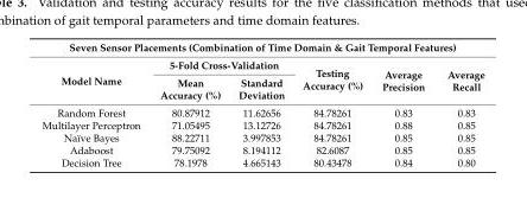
<table><thead><tr><td colspan="6">Seven Sensor Placements (Combination of Time Domain &amp; Gait Temporal Features)</td></tr><tr><td rowspan="2">Model Name</td><td colspan="2">5-Fold Cross-Validation</td><td rowspan="2">Testing Accuracy (%)</td><td rowspan="2">Average Precision</td><td rowspan="2">Average Recall</td></tr><tr><td>Mean Accuracy (%)</td><td>Standard Deviation</td></tr></thead><tbody><tr><td>Random Forest</td><td>80.87912</td><td>11.62656</td><td>84.78261</td><td>0.83</td><td>0.83</td></tr><tr><td>Multilayer Perceptron</td><td>71.05495</td><td>13.12726</td><td>84.78261</td><td>0.88</td><td>0.85</td></tr><tr><td>Naïve Bayes</td><td>88.22711</td><td>3.997853</td><td>84.78261</td><td>0.85</td><td>0.85</td></tr><tr><td>Adaboost</td><td>79.75092</td><td>8.194112</td><td>82.6087</td><td>0.85</td><td>0.85</td></tr><tr><td>Decision Tree</td><td>78.1978</td><td>4.665143</td><td>80.43478</td><td>0.84</td><td>0.80</td></tr></tbody></table>